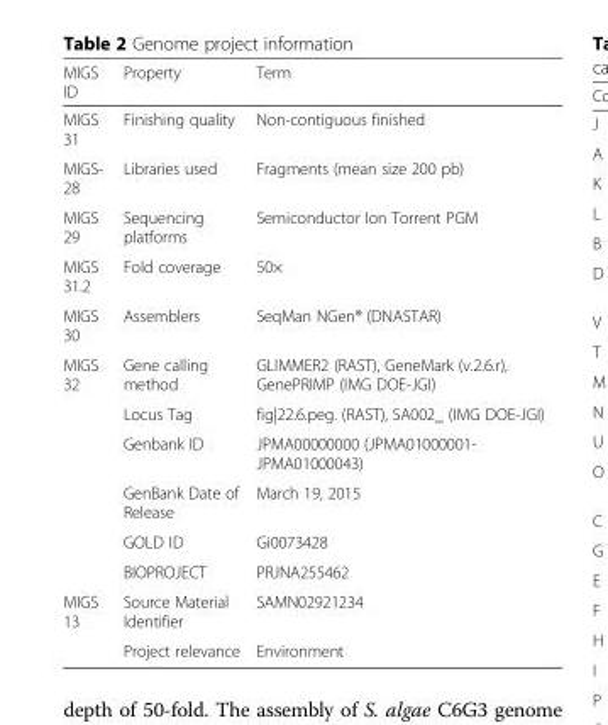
<table><thead><tr><td>MIGS ID</td><td>Property</td><td>Term</td></tr></thead><tbody><tr><td>MIGS 31</td><td>Finishing quality</td><td>Non-contiguous finished</td></tr><tr><td>MIGS- 28</td><td>Libraries used</td><td>Fragments (mean size 200 pb)</td></tr><tr><td>MIGS 29</td><td>Sequencing platforms</td><td>Semiconductor Ion Torrent PGM</td></tr><tr><td>MIGS 31.2</td><td>Fold coverage</td><td>50×</td></tr><tr><td>MIGS 30</td><td>Assemblers</td><td>SeqMan NGen® (DNASTAR)</td></tr><tr><td rowspan="6">MIGS 32</td><td>Gene calling method</td><td>GLIMMER2 (RAST), GeneMark (v.2.6.r), GenePRIMP (IMG DOE-JGI)</td></tr><tr><td>Locus Tag</td><td>fig|22.6.peg. (RAST), SA002_ (IMG DOE-JGI)</td></tr><tr><td>Genbank ID</td><td>JPMA00000000 (JPMA01000001- JPMA01000043)</td></tr><tr><td>GenBank Date of Release</td><td>March 19, 2015</td></tr><tr><td>GOLD ID</td><td>Gi0073428</td></tr><tr><td>BIOPROJECT</td><td>PRJNA255462</td></tr><tr><td rowspan="2">MIGS 13</td><td>Source Material Identifier</td><td>SAMN02921234</td></tr><tr><td>Project relevance</td><td>Environment</td></tr></tbody></table>